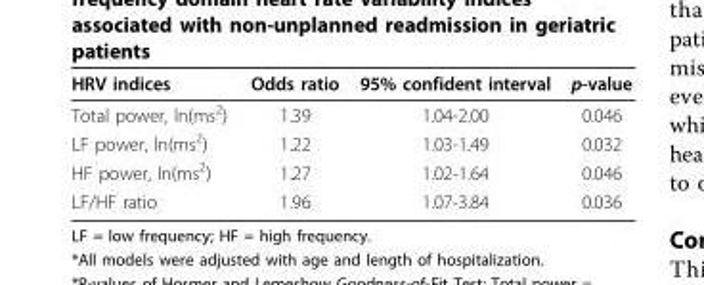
<table><thead><tr><td>HRV indices</td><td>Odds ratio</td><td>95% confident interval</td><td>p-value</td></tr></thead><tbody><tr><td>Total power, ln(ms<sup>2</sup>)</td><td>1.39</td><td>1.04-2.00</td><td>0.046</td></tr><tr><td>LF power, ln(ms<sup>2</sup>)</td><td>1.22</td><td>1.03-1.49</td><td>0.032</td></tr><tr><td>HF power, ln(ms<sup>2</sup>)</td><td>1.27</td><td>1.02-1.64</td><td>0.046</td></tr><tr><td>LF/HF ratio</td><td>1.96</td><td>1.07-3.84</td><td>0.036</td></tr></tbody></table>